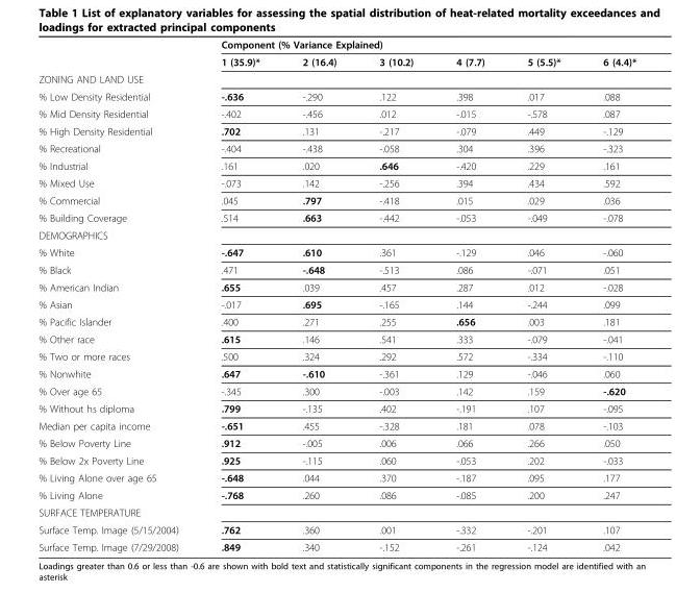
<table><thead><tr><td rowspan="2"></td><td colspan="6">Component (% Variance Explained)</td></tr><tr><td>1 (35.9)*</td><td>2 (16.4)</td><td>3 (10.2)</td><td>4 (7.7)</td><td>5 (5.5)*</td><td>6 (4.4)*</td></tr></thead><tbody><tr><td colspan="7">ZONING AND LAND USE</td></tr><tr><td>% Low Density Residential</td><td>-.636</td><td>-.290</td><td>.122</td><td>.398</td><td>.017</td><td>.088</td></tr><tr><td>% Mid Density Residential</td><td>-.402</td><td>-.456</td><td>.012</td><td>-.015</td><td>-.578</td><td>.087</td></tr><tr><td>% High Density Residential</td><td>.702</td><td>.131</td><td>-.217</td><td>-.079</td><td>.449</td><td>-.129</td></tr><tr><td>% Recreational</td><td>-.404</td><td>-.438</td><td>-.058</td><td>.304</td><td>.396</td><td>-.323</td></tr><tr><td>% Industrial</td><td>.161</td><td>.020</td><td>.646</td><td>-.420</td><td>.229</td><td>.161</td></tr><tr><td>% Mixed Use</td><td>-.073</td><td>.142</td><td>-.256</td><td>.394</td><td>.434</td><td>.592</td></tr><tr><td>% Commercial</td><td>.045</td><td>.797</td><td>-.418</td><td>.015</td><td>.029</td><td>.036</td></tr><tr><td>% Building Coverage</td><td>.514</td><td>.663</td><td>-.442</td><td>-.053</td><td>-.049</td><td>-.078</td></tr><tr><td colspan="7">DEMOGRAPHICS</td></tr><tr><td>% White</td><td>-.647</td><td>.610</td><td>.361</td><td>-.129</td><td>.046</td><td>-.060</td></tr><tr><td>% Black</td><td>.471</td><td>-.648</td><td>-.513</td><td>.086</td><td>-.071</td><td>.051</td></tr><tr><td>% American Indian</td><td>.655</td><td>.039</td><td>.457</td><td>.287</td><td>.012</td><td>-.028</td></tr><tr><td>% Asian</td><td>-.017</td><td>.695</td><td>-.165</td><td>.144</td><td>-.244</td><td>.099</td></tr><tr><td>% Pacific Islander</td><td>.400</td><td>.271</td><td>.255</td><td>.656</td><td>.003</td><td>.181</td></tr><tr><td>% Other race</td><td>.615</td><td>.146</td><td>.541</td><td>.333</td><td>-.079</td><td>-.041</td></tr><tr><td>% Two or more races</td><td>.500</td><td>.324</td><td>.292</td><td>.572</td><td>-.334</td><td>-.110</td></tr><tr><td>% Nonwhite</td><td>.647</td><td>-.610</td><td>-.361</td><td>.129</td><td>-.046</td><td>.060</td></tr><tr><td>% Over age 65</td><td>-.345</td><td>.300</td><td>-.003</td><td>.142</td><td>.159</td><td>-.620</td></tr><tr><td>% Without hs diploma</td><td>.799</td><td>-.135</td><td>.402</td><td>-.191</td><td>.107</td><td>-.095</td></tr><tr><td>Median per capita income</td><td>-.651</td><td>.455</td><td>-.328</td><td>.181</td><td>.078</td><td>-.103</td></tr><tr><td>% Below Poverty Line</td><td>.912</td><td>-.005</td><td>.006</td><td>.066</td><td>.266</td><td>.050</td></tr><tr><td>% Below 2x Poverty Line</td><td>.925</td><td>-.115</td><td>.060</td><td>-.053</td><td>.202</td><td>-.033</td></tr><tr><td>% Living Alone over age 65</td><td>-.648</td><td>.044</td><td>.370</td><td>-.187</td><td>.095</td><td>.177</td></tr><tr><td>% Living Alone</td><td>-.768</td><td>.260</td><td>.086</td><td>-.085</td><td>.200</td><td>.247</td></tr><tr><td colspan="7">SURFACE TEMPERATURE</td></tr><tr><td>Surface Temp. Image (5/15/2004)</td><td>.762</td><td>.360</td><td>.001</td><td>-.332</td><td>-.201</td><td>.107</td></tr><tr><td>Surface Temp. Image (7/29/2008)</td><td>.849</td><td>.340</td><td>-.152</td><td>-.261</td><td>-.124</td><td>.042</td></tr></tbody></table>